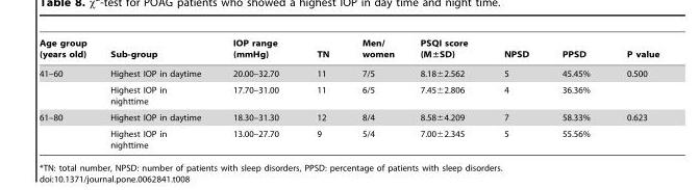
<table><thead><tr><td>Age group (years old)</td><td>Sub-group</td><td>IOP range (mmHg)</td><td>TN</td><td>Men/ women</td><td>PSQI score (M±SD)</td><td>NPSD</td><td>PPSD</td><td>P value</td></tr></thead><tbody><tr><td rowspan="2">41–60</td><td>Highest IOP in daytime</td><td>20.00–32.70</td><td>11</td><td>7/5</td><td>8.18±2.562</td><td>5</td><td>45.45%</td><td>0.500</td></tr><tr><td>Highest IOP in nighttime</td><td>17.70–31.00</td><td>11</td><td>6/5</td><td>7.45±2.806</td><td>4</td><td>36.36%</td><td></td></tr><tr><td rowspan="2">61–80</td><td>Highest IOP in daytime</td><td>18.30–31.30</td><td>12</td><td>8/4</td><td>8.58±4.209</td><td>7</td><td>58.33%</td><td>0.623</td></tr><tr><td>Highest IOP in nighttime</td><td>13.00–27.70</td><td>9</td><td>5/4</td><td>7.00±2.345</td><td>5</td><td>55.56%</td><td></td></tr></tbody></table>